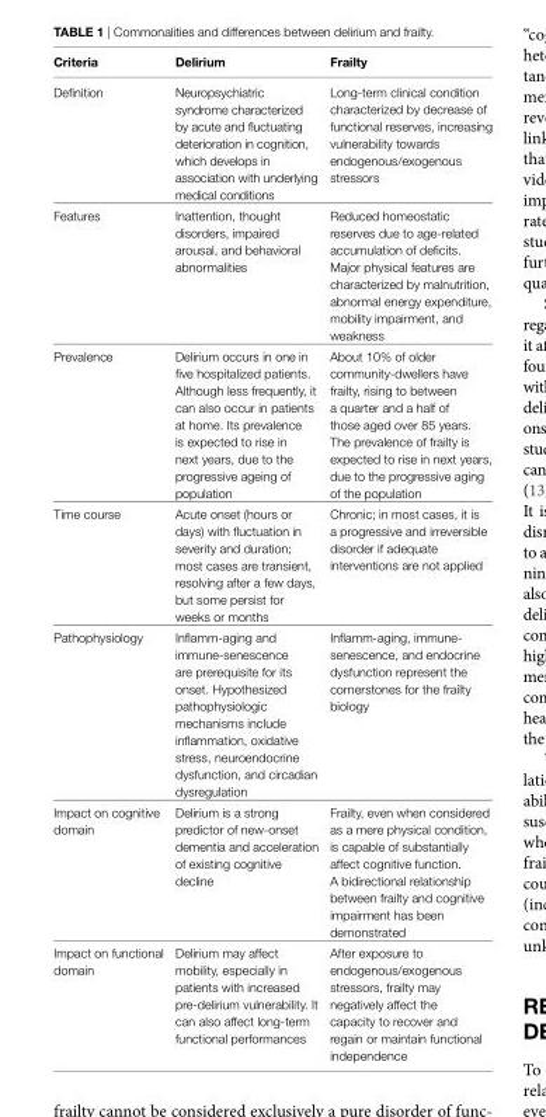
<table><thead><tr><td>Criteria</td><td>Delirium</td><td>Frailty</td></tr></thead><tbody><tr><td>Definition</td><td>Neuropsychiatric syndrome characterized by acute and fluctuating deterioration in cognition, which develops in association with underlying medical conditions</td><td>Long-term clinical condition characterized by decrease of functional reserves, increasing vulnerability towards endogenous/exogenous stressors</td></tr><tr><td>Features</td><td>Inattention, thought disorders, impaired arousal, and behavioral abnormalities</td><td>Reduced homeostatic reserves due to age-related accumulation of deficits. Major physical features are characterized by malnutrition, abnormal energy expenditure, mobility impairment, and weakness</td></tr><tr><td>Prevalence</td><td>Delirium occurs in one in five hospitalized patients. Although less frequently, it can also occur in patients at home. Its prevalence is expected to rise in next years, due to the progressive ageing of population</td><td>About 10% of older community-dwellers have frailty, rising to between a quarter and a half of those aged over 85 years. The prevalence of frailty is expected to rise in next years, due to the progressive aging of the population</td></tr><tr><td>Time course</td><td>Acute onset (hours or days) with fluctuation in severity and duration; most cases are transient, resolving after a few days, but some persist for weeks or months</td><td>Chronic; in most cases, it is a progressive and irreversible disorder if adequate interventions are not applied</td></tr><tr><td>Pathophysiology</td><td>Inflamm-aging and immune-senescence are prerequisite for its onset. Hypothesized pathophysiologic mechanisms include inflammation, oxidative stress, neuroendocrine dysfunction, and circadian dysregulation</td><td>Inflamm-aging, immune- senescence, and endocrine dysfunction represent the cornerstones for the frailty biology</td></tr><tr><td>Impact on cognitive domain</td><td>Delirium is a strong predictor of new-onset dementia and acceleration of existing cognitive decline</td><td>Frailty, even when considered as a mere physical condition, is capable of substantially affect cognitive function. A bidirectional relationship between frailty and cognitive impairment has been demonstrated</td></tr><tr><td>Impact on functional domain</td><td>Delirium may affect mobility, especially in patients with increased pre-delirium vulnerability. It can also affect long-term functional performances</td><td>After exposure to endogenous/exogenous stressors, frailty may negatively affect the capacity to recover and regain or maintain functional independence</td></tr></tbody></table>